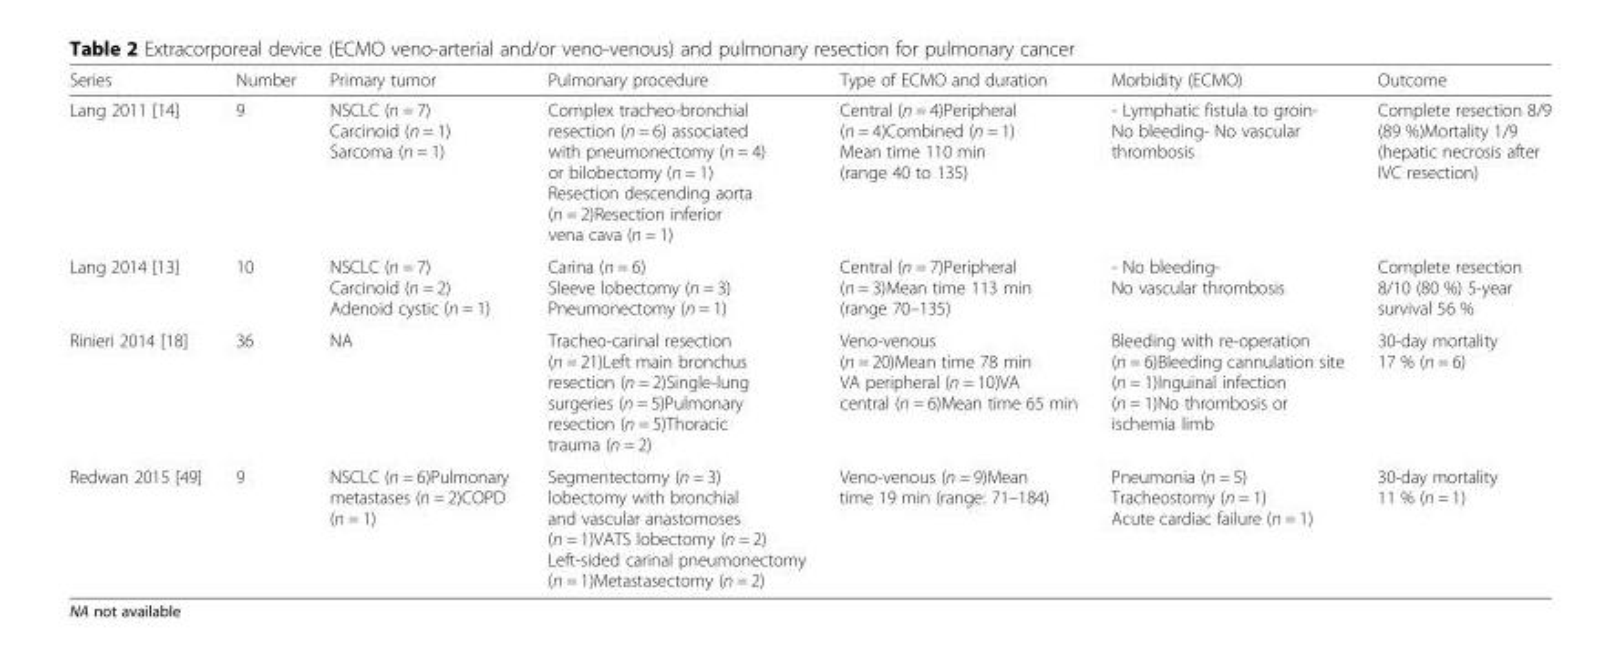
<table><thead><tr><td>Series</td><td>Number</td><td>Primary tumor</td><td>Pulmonary procedure</td><td>Type of ECMO and duration</td><td>Morbidity (ECMO)</td><td>Outcome</td></tr></thead><tbody><tr><td>Lang 2011 [14]</td><td>9</td><td>NSCLC (n = 7) Carcinoid (n = 1) Sarcoma (n = 1)</td><td>Complex tracheo-bronchial resection (n = 6) associated with pneumonectomy (n = 4) or bilobectomy (n = 1) Resection descending aorta (n = 2)Resection inferior vena cava (n = 1)</td><td>Central (n = 4)Peripheral (n = 4)Combined (n = 1) Mean time 110 min (range 40 to 135)</td><td>- Lymphatic fistula to groin- No bleeding- No vascular thrombosis</td><td>Complete resection 8/9 (89 %)Mortality 1/9 (hepatic necrosis after IVC resection)</td></tr><tr><td>Lang 2014 [13]</td><td>10</td><td>NSCLC (n = 7) Carcinoid (n = 2) Adenoid cystic (n = 1)</td><td>Carina (n = 6) Sleeve lobectomy (n = 3) Pneumonectomy (n = 1)</td><td>Central (n = 7)Peripheral (n = 3)Mean time 113 min (range 70–135)</td><td>- No bleeding- No vascular thrombosis</td><td>Complete resection 8/10 (80 %) 5-year survival 56 %</td></tr><tr><td>Rinieri 2014 [18]</td><td>36</td><td>NA</td><td>Tracheo-carinal resection (n = 21)Left main bronchus resection (n = 2)Single-lung surgeries (n = 5)Pulmonary resection (n = 5)Thoracic trauma (n = 2)</td><td>Veno-venous (n = 20)Mean time 78 min VA peripheral (n = 10)VA central (n = 6)Mean time 65 min</td><td>Bleeding with re-operation (n = 6)Bleeding cannulation site (n = 1)Inguinal infection (n = 1)No thrombosis or ischemia limb</td><td>30-day mortality 17 % (n = 6)</td></tr><tr><td>Redwan 2015 [49]</td><td>9</td><td>NSCLC (n = 6)Pulmonary metastases (n = 2)COPD (n = 1)</td><td>Segmentectomy (n = 3) lobectomy with bronchial and vascular anastomoses (n = 1)VATS lobectomy (n = 2) Left-sided carinal pneumonectomy (n = 1)Metastasectomy (n = 2)</td><td>Veno-venous (n = 9)Mean time 19 min (range: 71–184)</td><td>Pneumonia (n = 5) Tracheostomy (n = 1) Acute cardiac failure (n = 1)</td><td>30-day mortality 11 % (n = 1)</td></tr></tbody></table>